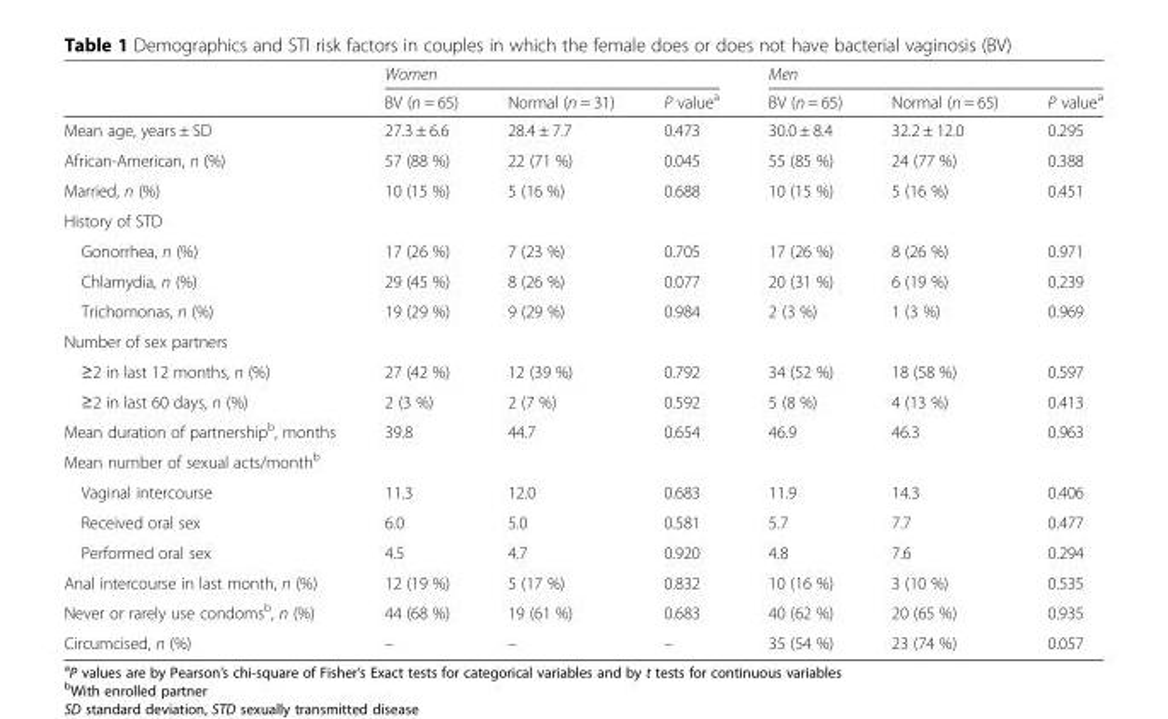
<table><thead><tr><td rowspan="2"></td><td colspan="3">Women</td><td colspan="3">Men</td></tr><tr><td>BV (n = 65)</td><td>Normal (n = 31)</td><td>P value<sup>a</sup></td><td>BV (n = 65)</td><td>Normal (n = 65)</td><td>P value<sup>a</sup></td></tr></thead><tbody><tr><td>Mean age, years ± SD</td><td>27.3 ± 6.6</td><td>28.4 ± 7.7</td><td>0.473</td><td>30.0 ± 8.4</td><td>32.2 ± 12.0</td><td>0.295</td></tr><tr><td>African-American, n (%)</td><td>57 (88 %)</td><td>22 (71 %)</td><td>0.045</td><td>55 (85 %)</td><td>24 (77 %)</td><td>0.388</td></tr><tr><td>Married, n (%)</td><td>10 (15 %)</td><td>5 (16 %)</td><td>0.688</td><td>10 (15 %)</td><td>5 (16 %)</td><td>0.451</td></tr><tr><td colspan="7">History of STD</td></tr><tr><td>Gonorrhea, n (%)</td><td>17 (26 %)</td><td>7 (23 %)</td><td>0.705</td><td>17 (26 %)</td><td>8 (26 %)</td><td>0.971</td></tr><tr><td>Chlamydia, n (%)</td><td>29 (45 %)</td><td>8 (26 %)</td><td>0.077</td><td>20 (31 %)</td><td>6 (19 %)</td><td>0.239</td></tr><tr><td>Trichomonas, n (%)</td><td>19 (29 %)</td><td>9 (29 %)</td><td>0.984</td><td>2 (3 %)</td><td>1 (3 %)</td><td>0.969</td></tr><tr><td colspan="7">Number of sex partners</td></tr><tr><td>≥2 in last 12 months, n (%)</td><td>27 (42 %)</td><td>12 (39 %)</td><td>0.792</td><td>34 (52 %)</td><td>18 (58 %)</td><td>0.597</td></tr><tr><td>≥2 in last 60 days, n (%)</td><td>2 (3 %)</td><td>2 (7 %)</td><td>0.592</td><td>5 (8 %)</td><td>4 (13 %)</td><td>0.413</td></tr><tr><td>Mean duration of partnership<sup>b</sup>, months</td><td>39.8</td><td>44.7</td><td>0.654</td><td>46.9</td><td>46.3</td><td>0.963</td></tr><tr><td colspan="7">Mean number of sexual acts/month<sup>b</sup></td></tr><tr><td>Vaginal intercourse</td><td>11.3</td><td>12.0</td><td>0.683</td><td>11.9</td><td>14.3</td><td>0.406</td></tr><tr><td>Received oral sex</td><td>6.0</td><td>5.0</td><td>0.581</td><td>5.7</td><td>7.7</td><td>0.477</td></tr><tr><td>Performed oral sex</td><td>4.5</td><td>4.7</td><td>0.920</td><td>4.8</td><td>7.6</td><td>0.294</td></tr><tr><td>Anal intercourse in last month, n (%)</td><td>12 (19 %)</td><td>5 (17 %)</td><td>0.832</td><td>10 (16 %)</td><td>3 (10 %)</td><td>0.535</td></tr><tr><td>Never or rarely use condoms<sup>b</sup>, n (%)</td><td>44 (68 %)</td><td>19 (61 %)</td><td>0.683</td><td>40 (62 %)</td><td>20 (65 %)</td><td>0.935</td></tr><tr><td>Circumcised, n (%)</td><td>–</td><td>–</td><td>–</td><td>35 (54 %)</td><td>23 (74 %)</td><td>0.057</td></tr></tbody></table>